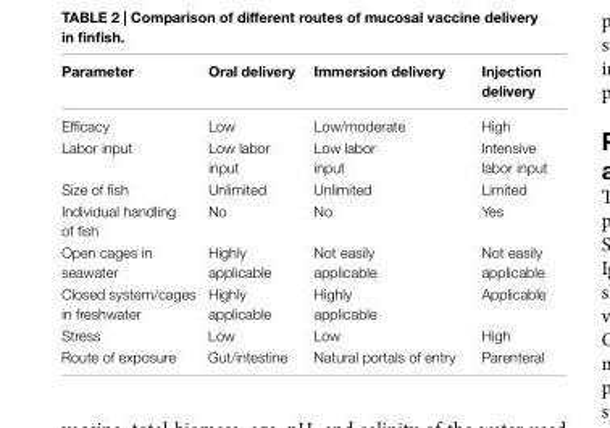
<table><thead><tr><td>Parameter</td><td>Oral delivery</td><td>immersion delivery</td><td>injection delivery</td></tr></thead><tbody><tr><td>Efficacy</td><td>Low</td><td>Low/moderate</td><td>High</td></tr><tr><td>Labor input</td><td>Low labor input</td><td>Low labor input</td><td>Intensive labor input</td></tr><tr><td>Size of fish</td><td>Unlimited</td><td>Unlimited</td><td>Limited</td></tr><tr><td>Individual handling of fish</td><td>No</td><td>No</td><td>Yes</td></tr><tr><td>Open cages in seawater</td><td>Highly applicable</td><td>Not easily applicable</td><td>Not easily applicable</td></tr><tr><td>Closed system/cages in freshwater</td><td>Highly applicable</td><td>Highly applicable</td><td>Applicable</td></tr><tr><td>Stress</td><td>Low</td><td>Low</td><td>High</td></tr><tr><td>Route of exposure</td><td>Gut/intestine</td><td>Natural portals of entry</td><td>Parenteral</td></tr></tbody></table>